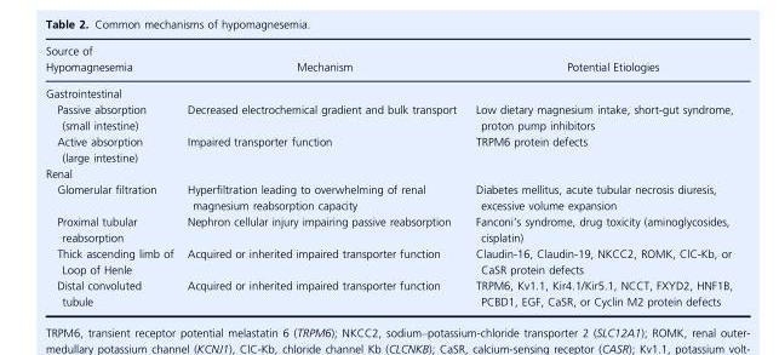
<table><thead><tr><td>Source of Hypomagnesemia</td><td>Mechanism</td><td>Potential Etiologies</td></tr></thead><tbody><tr><td colspan="3">Gastrointestinal</td></tr><tr><td>Passive absorption (small intestine)</td><td>Decreased electrochemical gradient and bulk transport</td><td>Low dietary magnesium intake, short-gut syndrome, proton pump inhibitors</td></tr><tr><td>Active absorption (large intestine)</td><td>Impaired transporter function</td><td>TRPM6 protein defects</td></tr><tr><td colspan="3">Renal</td></tr><tr><td>Glomerular filtration</td><td>Hyperfiltration leading to overwhelming of renal magnesium reabsorption capacity</td><td>Diabetes mellitus, acute tubular necrosis diuresis, excessive volume expansion</td></tr><tr><td>Proximal tubular reabsorption</td><td>Nephron cellular injury impairing passive reabsorption</td><td>Fanconi’s syndrome, drug toxicity (aminoglycosides, cisplatin)</td></tr><tr><td>Thick ascending limb of Loop of Henle</td><td>Acquired or inherited impaired transporter function</td><td>Claudin-16, Claudin-19, NKCC2, ROMK, ClC-Kb, or CaSR protein defects</td></tr><tr><td>Distal convoluted tubule</td><td>Acquired or inherited impaired transporter function</td><td>TRPM6, Kv1.1, Kir4.1/Kir5.1, NCCT, FXYD2, HNF1B, PCBD1, EGF, CaSR, or Cyclin M2 protein defects</td></tr></tbody></table>